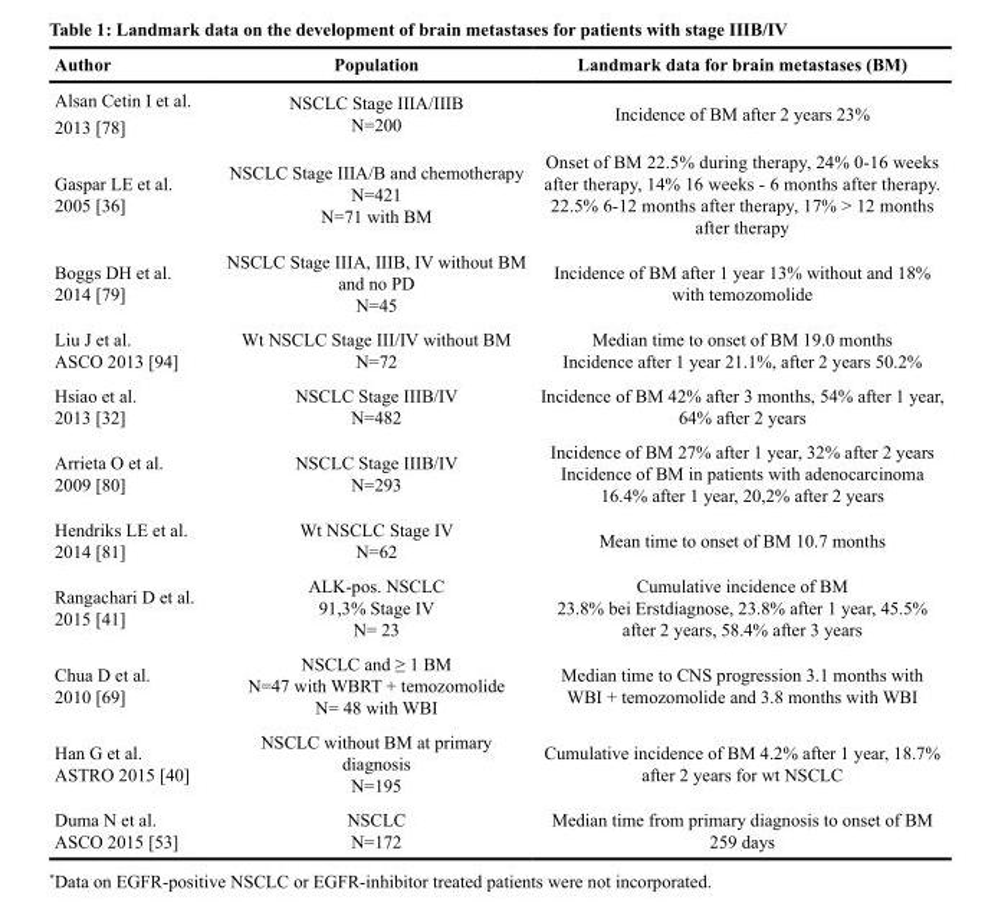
<table><thead><tr><td>Author</td><td>Population</td><td>Landmark data for brain metastases (BM)</td></tr></thead><tbody><tr><td>Alsan Cetin I et al. 2013 [78]</td><td>NSCLC Stage IIIA/IIIB N=200</td><td>Incidence of BM after 2 years 23%</td></tr><tr><td>Gaspar LE et al. 2005 [36]</td><td>NSCLC Stage IIIA/B and chemotherapy N=421 N=71 with BM</td><td>Onset of BM 22.5% during therapy, 24% 0-16 weeks after therapy, 14% 16 weeks - 6 months after therapy. 22.5% 6-12 months after therapy, 17% &gt; 12 months after therapy</td></tr><tr><td>Boggs DH et al. 2014 [79]</td><td>NSCLC Stage IIIA, IIIB, IV without BM and no PD N=45</td><td>Incidence of BM after 1 year 13% without and 18% with temozomolide</td></tr><tr><td>Liu J et al. ASCO 2013 [94]</td><td>Wt NSCLC Stage III/IV without BM N=72</td><td>Median time to onset of BM 19.0 months Incidence after 1 year 21.1%, after 2 years 50.2%</td></tr><tr><td>Hsiao et al. 2013 [32]</td><td>NSCLC Stage IIIB/IV N=482</td><td>Incidence of BM 42% after 3 months, 54% after 1 year, 64% after 2 years</td></tr><tr><td>Arrieta O et al. 2009 [80]</td><td>NSCLC Stage IIIB/IV N=293</td><td>Incidence of BM 27% after 1 year, 32% after 2 years Incidence of BM in patients with adenocarcinoma 16.4% after 1 year, 20,2% after 2 years</td></tr><tr><td>Hendriks LE et al. 2014 [81]</td><td>Wt NSCLC Stage IV N=62</td><td>Mean time to onset of BM 10.7 months</td></tr><tr><td>Rangachari D et al. 2015 [41]</td><td>ALK-pos. NSCLC 91,3% Stage IV N= 23</td><td>Cumulative incidence of BM 23.8% bei Erstdiagnose, 23.8% after 1 year, 45.5% after 2 years, 58.4% after 3 years</td></tr><tr><td>Chua D et al. 2010 [69]</td><td>NSCLC and ≥ 1 BM N=47 with WBRT + temozomolide N= 48 with WBI</td><td>Median time to CNS progression 3.1 months with WBI + temozomolide and 3.8 months with WBI</td></tr><tr><td>Han G et al. ASTRO 2015 [40]</td><td>NSCLC without BM at primary diagnosis N=195</td><td>Cumulative incidence of BM 4.2% after 1 year, 18.7% after 2 years for wt NSCLC</td></tr><tr><td>Duma N et al. ASCO 2015 [53]</td><td>NSCLC N=172</td><td>Median time from primary diagnosis to onset of BM 259 days</td></tr></tbody></table>